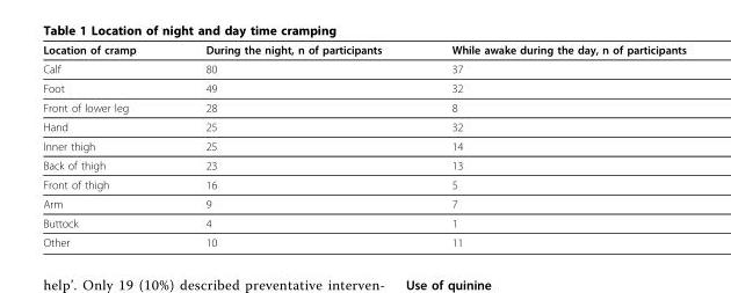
<table><thead><tr><td>Location of cramp</td><td>During the night, n of participants</td><td>While awake during the day, n of participants</td></tr></thead><tbody><tr><td>Calf</td><td>80</td><td>37</td></tr><tr><td>Foot</td><td>49</td><td>32</td></tr><tr><td>Front of lower leg</td><td>28</td><td>8</td></tr><tr><td>Hand</td><td>25</td><td>32</td></tr><tr><td>Inner thigh</td><td>25</td><td>14</td></tr><tr><td>Back of thigh</td><td>23</td><td>13</td></tr><tr><td>Front of thigh</td><td>16</td><td>5</td></tr><tr><td>Arm</td><td>9</td><td>7</td></tr><tr><td>Buttock</td><td>4</td><td>1</td></tr><tr><td>Other</td><td>10</td><td>11</td></tr></tbody></table>